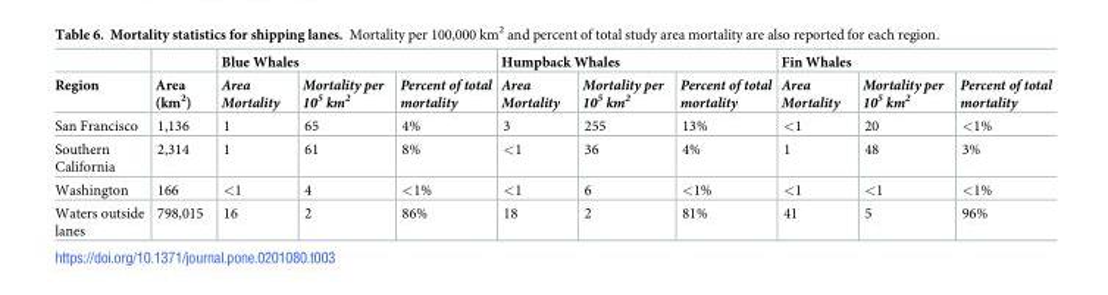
<table><thead><tr><td rowspan="2">Region</td><td rowspan="2">Area (km<sup>2</sup>)</td><td colspan="3">Blue Whales</td><td colspan="3">Humpback Whales</td><td colspan="3">Fin Whales</td></tr><tr><td>Area Mortality</td><td>Mortality per 10<sup>5</sup> km<sup>2</sup></td><td>Percent of total mortality</td><td>Area Mortality</td><td>Mortality per 10<sup>5</sup> km<sup>2</sup></td><td>Percent of total mortality</td><td>Area Mortality</td><td>Mortality per 10<sup>5</sup> km<sup>2</sup></td><td>Percent of total mortality</td></tr></thead><tbody><tr><td>San Francisco</td><td>1,136</td><td>1</td><td>65</td><td>4%</td><td>3</td><td>255</td><td>13%</td><td>&lt;1</td><td>20</td><td>&lt;1%</td></tr><tr><td>Southern California</td><td>2,314</td><td>1</td><td>61</td><td>8%</td><td>&lt;1</td><td>36</td><td>4%</td><td>1</td><td>48</td><td>3%</td></tr><tr><td>Washington</td><td>166</td><td>&lt;1</td><td>4</td><td>&lt;1%</td><td>&lt;1</td><td>6</td><td>&lt;1%</td><td>&lt;1</td><td>&lt;1</td><td>&lt;1%</td></tr><tr><td>Waters outside lanes</td><td>798,015</td><td>16</td><td>2</td><td>86%</td><td>18</td><td>2</td><td>81%</td><td>41</td><td>5</td><td>96%</td></tr></tbody></table>